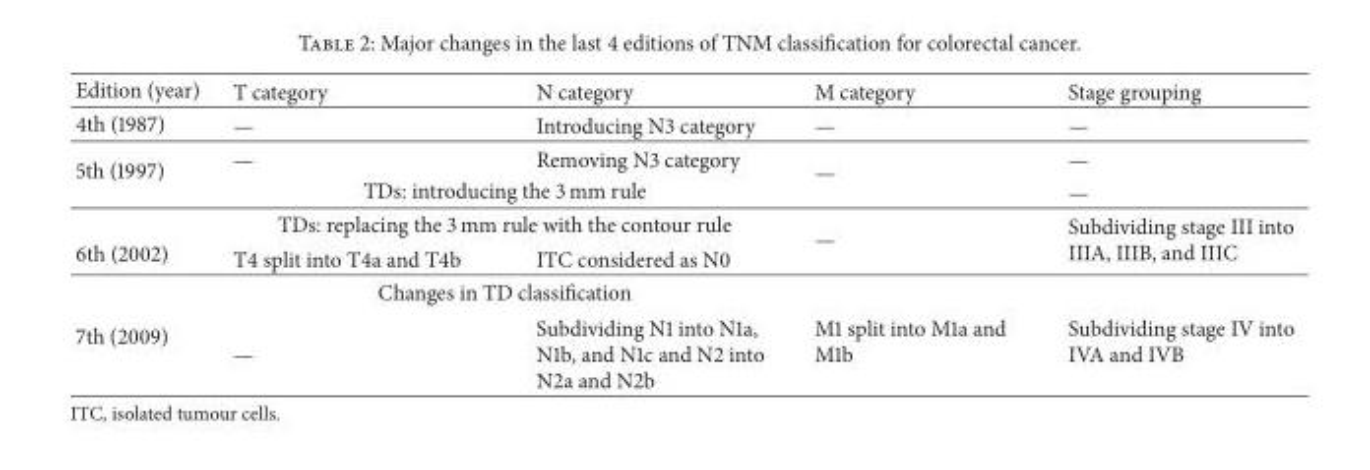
<table><thead><tr><td>Edition (year)</td><td>T category</td><td>N category</td><td>M category</td><td>Stage grouping</td></tr></thead><tbody><tr><td>4th (1987)</td><td>—</td><td>Introducing N3 category</td><td>—</td><td>—</td></tr><tr><td rowspan="2">5th (1997)</td><td>—</td><td>Removing N3 category</td><td rowspan="2">—</td><td>—</td></tr><tr><td colspan="2">TDs: introducing the 3 mm rule</td><td>—</td></tr><tr><td rowspan="2">6th (2002)</td><td colspan="2">TDs: replacing the 3 mm rule with the contour rule</td><td rowspan="2">—</td><td rowspan="2">Subdividing stage III into IIIA, IIIB, and IIIC</td></tr><tr><td>T4 split into T4a and T4b</td><td>ITC considered as N0</td></tr><tr><td rowspan="2">7th (2009)</td><td colspan="2">Changes in TD classification</td><td rowspan="2">M1 split into M1a and M1b</td><td rowspan="2">Subdividing stage IV into IVA and IVB</td></tr><tr><td>—</td><td>Subdividing N1 into N1a, N1b, and N1c and N2 into N2a and N2b</td></tr></tbody></table>